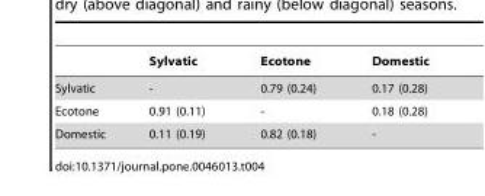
<table><thead><tr><td></td><td>Sylvatic</td><td>Ecotone</td><td>Domestic</td></tr></thead><tbody><tr><td>Sylvatic</td><td>-</td><td>0.79 (0.24)</td><td>0.17 (0.28)</td></tr><tr><td>Ecotone</td><td>0.91 (0.11)</td><td>-</td><td>0.18 (0.28)</td></tr><tr><td>Domestic</td><td>0.11 (0.19)</td><td>0.82 (0.18)</td><td>-</td></tr></tbody></table>